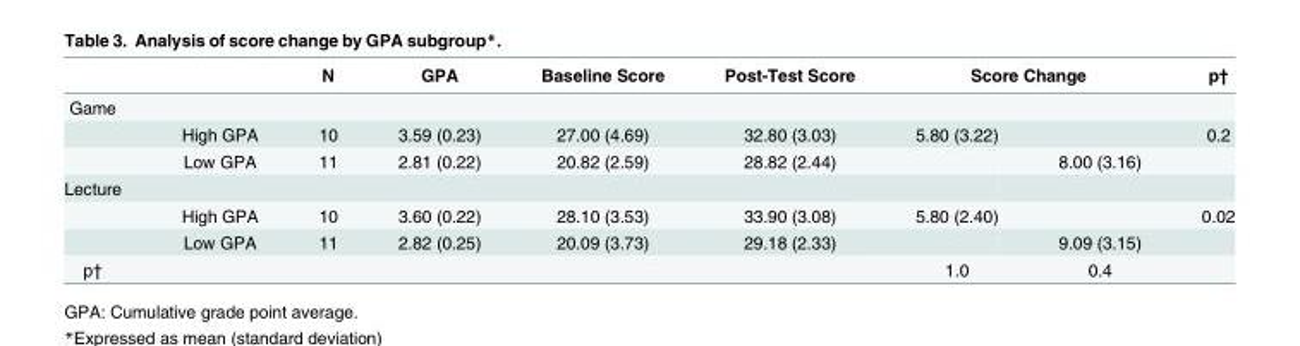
<table><thead><tr><td rowspan="2">Game</td><td rowspan="2"></td><td rowspan="2">N</td><td rowspan="2">GPA</td><td rowspan="2">Baseline Score</td><td rowspan="2">Post-Test Score</td><td colspan="2">Score Change</td><td rowspan="2">p†</td></tr><tr><td></td><td></td></tr></thead><tbody><tr><td></td><td>High GPA</td><td>10</td><td>3.59 (0.23)</td><td>27.00 (4.69)</td><td>32.80 (3.03)</td><td>5.80 (3.22)</td><td></td><td>0.2</td></tr><tr><td></td><td>Low GPA</td><td>11</td><td>2.81 (0.22)</td><td>20.82 (2.59)</td><td>28.82 (2.44)</td><td></td><td>8.00 (3.16)</td><td></td></tr><tr><td colspan="9">Lecture</td></tr><tr><td></td><td>High GPA</td><td>10</td><td>3.60 (0.22)</td><td>28.10 (3.53)</td><td>33.90 (3.08)</td><td>5.80 (2.40)</td><td></td><td>0.02</td></tr><tr><td></td><td>Low GPA</td><td>11</td><td>2.82 (0.25)</td><td>20.09 (3.73)</td><td>29.18 (2.33)</td><td></td><td>9.09 (3.15)</td><td></td></tr><tr><td>p†</td><td></td><td></td><td></td><td></td><td></td><td>1.0</td><td>0.4</td><td></td></tr></tbody></table>